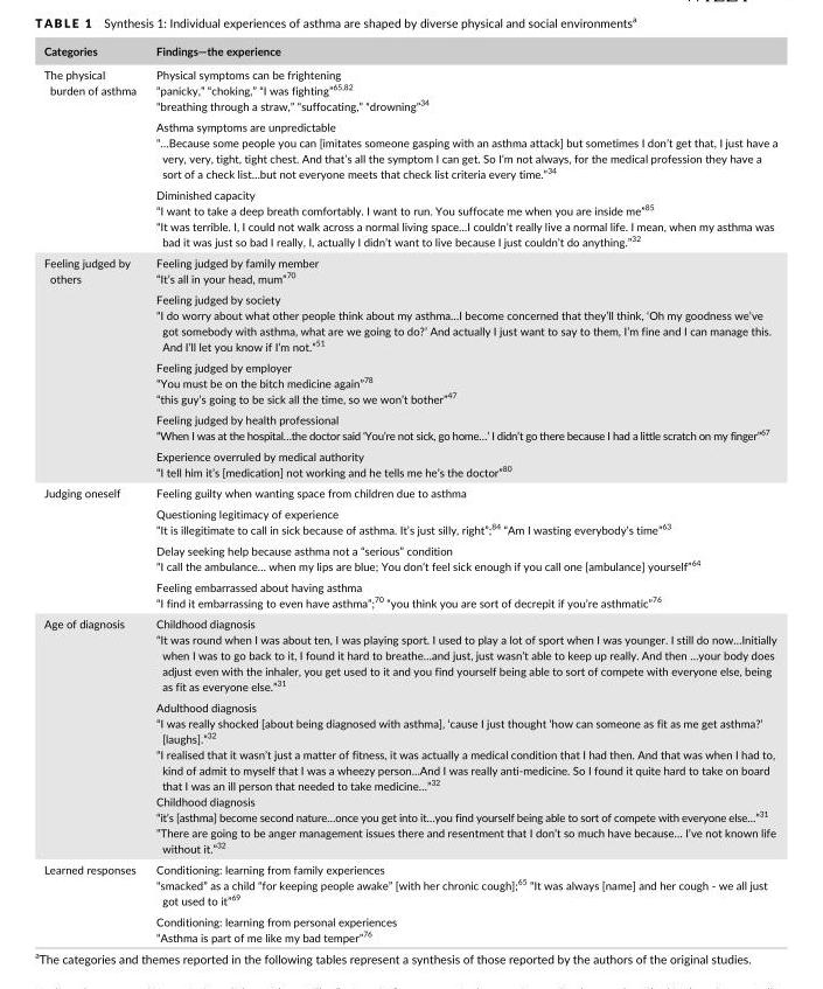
<table><thead><tr><td>Categories</td><td>Findings—the experience</td></tr></thead><tbody><tr><td rowspan="3">The physical burden of asthma</td><td>Physical symptoms can be frightening “panicky,” “choking,” “I was fighting”<sup>65</sup>,<sup>82</sup> “breathing through a straw,” “suffocating,” “drowning”<sup>34</sup></td></tr><tr><td>Asthma symptoms are unpredictable “…Because some people you can [imitates someone gasping with an asthma attack] but sometimes I don’t get that, I just have a very, very, tight, tight chest. And that’s all the symptom I can get. So I’m not always, for the medical profession they have a sort of a check list…but not everyone meets that check list criteria every time.”<sup>34</sup></td></tr><tr><td>Diminished capacity “I want to take a deep breath comfortably. I want to run. You suffocate me when you are inside me”<sup>85</sup> “It was terrible. I, I could not walk across a normal living space…I couldn’t really live a normal life. I mean, when my asthma was bad it was just so bad I really, I, actually I didn’t want to live because I just couldn’t do anything.”<sup>32</sup></td></tr><tr><td rowspan="5">Feeling judged by others</td><td>Feeling judged by family member “It’s all in your head, mum”<sup>70</sup></td></tr><tr><td>Feeling judged by society “I do worry about what other people think about my asthma…I become concerned that they’ll think, ‘Oh my goodness we’ve got somebody with asthma, what are we going to do?’ And actually I just want to say to them, I’m fine and I can manage this. And I’ll let you know if I’m not.”<sup>51</sup></td></tr><tr><td>Feeling judged by employer “You must be on the bitch medicine again”<sup>78</sup> “this guy’s going to be sick all the time, so we won’t bother”<sup>47</sup></td></tr><tr><td>Feeling judged by health professional “When I was at the hospital…the doctor said ‘You’re not sick, go home…’ I didn’t go there because I had a little scratch on my finger”<sup>67</sup></td></tr><tr><td>Experience overruled by medical authority “I tell him it’s [medication] not working and he tells me he’s the doctor”<sup>80</sup></td></tr><tr><td rowspan="4">Judging oneself</td><td>Feeling guilty when wanting space from children due to asthma</td></tr><tr><td>Questioning legitimacy of experience “It is illegitimate to call in sick because of asthma. It’s just silly, right”;<sup>84</sup> “Am I wasting everybody’s time”<sup>63</sup></td></tr><tr><td>Delay seeking help because asthma not a “serious” condition “I call the ambulance… when my lips are blue; You don’t feel sick enough if you call one [ambulance] yourself”<sup>64</sup></td></tr><tr><td>Feeling embarrassed about having asthma “I find it embarrassing to even have asthma”;<sup>70</sup> “you think you are sort of decrepit if you’re asthmatic”<sup>76</sup></td></tr><tr><td rowspan="2">Age of diagnosis</td><td>Childhood diagnosis “It was round when I was about ten, I was playing sport. I used to play a lot of sport when I was younger. I still do now…Initially when I was to go back to it, I found it hard to breathe…and just, just wasn’t able to keep up really. And then …your body does adjust even with the inhaler, you get used to it and you find yourself being able to sort of compete with everyone else, being as fit as everyone else.”<sup>31</sup></td></tr><tr><td>Adulthood diagnosis “I was really shocked [about being diagnosed with asthma], ‘cause I just thought ‘how can someone as fit as me get asthma?’ [laughs].”<sup>32</sup> “I realised that it wasn’t just a matter of fitness, it was actually a medical condition that I had then. And that was when I had to, kind of admit to myself that I was a wheezy person…And I was really anti- medicine. So I found it quite hard to take on board that I was an ill person that needed to take medicine…”<sup>32</sup> Childhood diagnosis “it’s [asthma] become second nature…once you get into it…you find yourself being able to sort of compete with everyone else…”<sup>31</sup> “There are going to be anger management issues there and resentment that I don’t so much have because… I’ve not known life without it.”<sup>32</sup></td></tr><tr><td rowspan="2">Learned responses</td><td>Conditioning: learning from family experiences “smacked” as a child “for keeping people awake” [with her chronic cough];<sup>65</sup> “It was always [name] and her cough - we all just got used to it”<sup>69</sup></td></tr><tr><td>Conditioning: learning from personal experiences “Asthma is part of me like my bad temper”<sup>76</sup></td></tr></tbody></table>